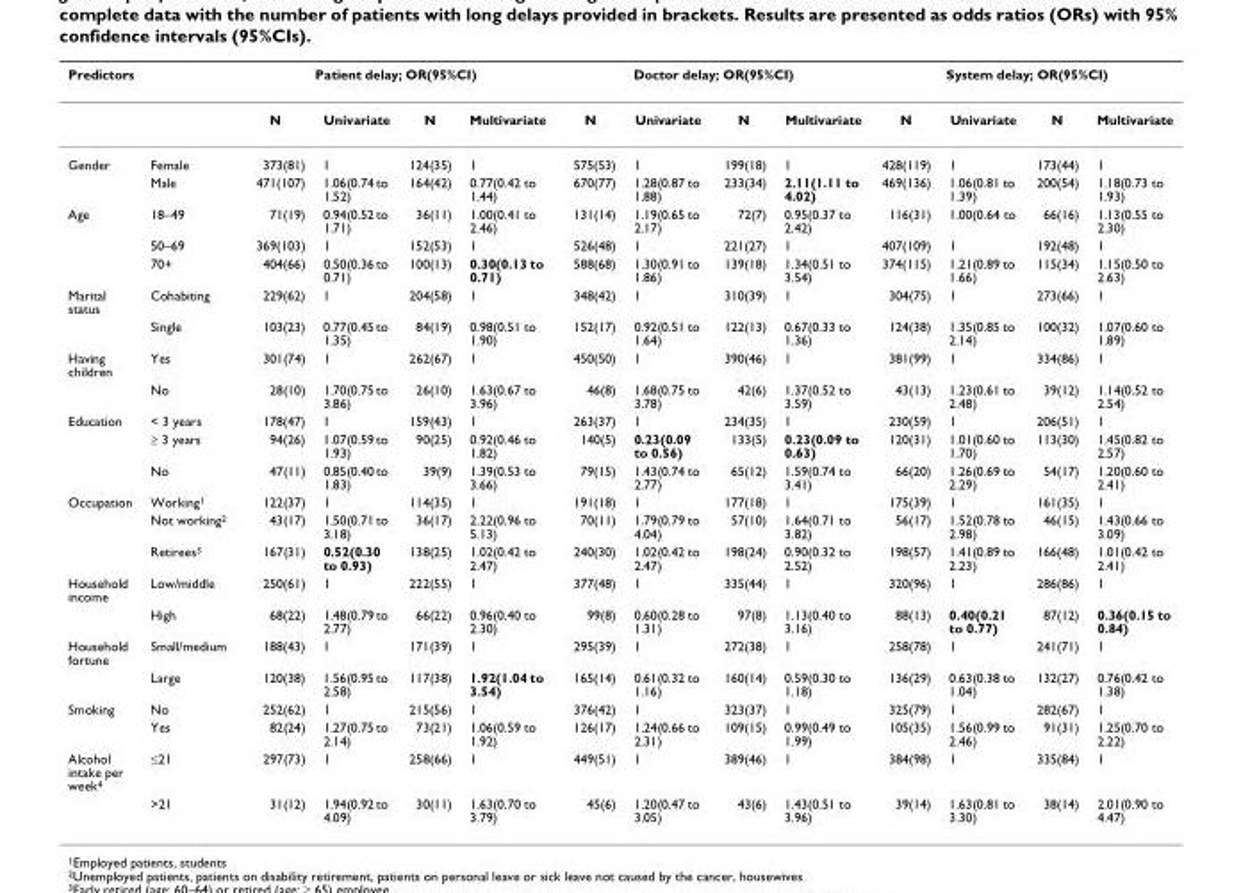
<table><thead><tr><td colspan="2">Predictors</td><td colspan="4">Patient delay; OR(95%CI)</td><td colspan="4">Doctor delay; OR(95%CI)</td><td colspan="4">System delay; OR(95%CI)</td></tr><tr><td></td><td></td><td>N</td><td>Univariate</td><td>N</td><td>Multivariate</td><td>N</td><td>Univariate</td><td>N</td><td>Multivariate</td><td>N</td><td>Univariate</td><td>N</td><td>Multivariate</td></tr></thead><tbody><tr><td rowspan="2">Gender</td><td>Female</td><td>373(81)</td><td>1</td><td>124(35)</td><td>1</td><td>575(53)</td><td>1</td><td>199(18)</td><td>1</td><td>428(119)</td><td>1</td><td>173(44)</td><td>1</td></tr><tr><td>Male</td><td>471(107)</td><td>1.06(0.74 to 1.52)</td><td>164(42)</td><td>0.77(0.42 to 1.44)</td><td>670(77)</td><td>1.28(0.87 to 1.88)</td><td>233(34)</td><td>2.11(1.11 to 4.02)</td><td>469(136)</td><td>1.06(0.81 to 1.39)</td><td>200(54)</td><td>1.18(0.73 to 1.93)</td></tr><tr><td rowspan="3">Age</td><td>18–49</td><td>71(19)</td><td>0.94(0.52 to 1.71)</td><td>36(11)</td><td>1.00(0.41 to 2.46)</td><td>131(14)</td><td>1.19(0.65 to 2.17)</td><td>72(7)</td><td>0.95(0.37 to 2.42)</td><td>116(31)</td><td>1.00(0.64 to</td><td>66(16)</td><td>1.13(0.55 to 2.30)</td></tr><tr><td>50–69</td><td>369(103)</td><td>1</td><td>152(53)</td><td>1</td><td>526(48)</td><td>1</td><td>221(27)</td><td>1</td><td>407(109)</td><td>1</td><td>192(48)</td><td>1</td></tr><tr><td>70+</td><td>404(66)</td><td>0.50(0.36 to 0.71)</td><td>100(13)</td><td>0.30(0.13 to 0.71)</td><td>588(68)</td><td>1.30(0.91 to 1.86)</td><td>139(18)</td><td>1.34(0.51 to 3.54)</td><td>374(115)</td><td>1.21(0.89 to 1.66)</td><td>115(34)</td><td>1.15(0.50 to 2.63)</td></tr><tr><td rowspan="2">Marital status</td><td>Cohabiting</td><td>229(62)</td><td>1</td><td>204(58)</td><td>1</td><td>348(42)</td><td>1</td><td>310(39)</td><td>1</td><td>304(75)</td><td>1</td><td>273(66)</td><td>1</td></tr><tr><td>Single</td><td>103(23)</td><td>0.77(0.45 to 1.35)</td><td>84(19)</td><td>0.98(0.51 to 1.90)</td><td>152(17)</td><td>0.92(0.51 to 1.64)</td><td>122(13)</td><td>0.67(0.33 to 1.36)</td><td>124(38)</td><td>1.35(0.85 to 2.14)</td><td>100(32)</td><td>1.07(0.60 to 1.89)</td></tr><tr><td rowspan="2">Having children</td><td>Yes</td><td>301(74)</td><td>1</td><td>262(67)</td><td>1</td><td>450(50)</td><td>1</td><td>390(46)</td><td>1</td><td>381(99)</td><td>1</td><td>334(86)</td><td>1</td></tr><tr><td>No</td><td>28(10)</td><td>1.70(0.75 to 3.86)</td><td>26(10)</td><td>1.63(0.67 to 3.96)</td><td>46(8)</td><td>1.68(0.75 to 3.78)</td><td>42(6)</td><td>1.37(0.52 to 3.59)</td><td>43(13)</td><td>1.23(0.61 to 2.48)</td><td>39(12)</td><td>1.14(0.52 to 2.54)</td></tr><tr><td rowspan="3">Education</td><td>&lt; 3 years</td><td>178(47)</td><td>1</td><td>159(43)</td><td>1</td><td>263(37)</td><td>1</td><td>234(35)</td><td>1</td><td>230(59)</td><td>1</td><td>206(51)</td><td>1</td></tr><tr><td>≥ 3 years</td><td>94(26)</td><td>1.07(0.59 to 1.93)</td><td>90(25)</td><td>0.92(0.46 to 1.82)</td><td>140(5)</td><td>0.23(0.09 to 0.56)</td><td>133(5)</td><td>0.23(0.09 to 0.63)</td><td>120(31)</td><td>1.01(0.60 to 1.70)</td><td>113(30)</td><td>1.45(0.82 to 2.57)</td></tr><tr><td>No</td><td>47(11)</td><td>0.85(0.40 to 1.83)</td><td>39(9)</td><td>1.39(0.53 to 3.66)</td><td>79(15)</td><td>1.43(0.74 to 2.77)</td><td>65(12)</td><td>1.59(0.74 to 3.41)</td><td>66(20)</td><td>1.26(0.69 to 2.29)</td><td>54(17)</td><td>1.20(0.60 to 2.41)</td></tr><tr><td rowspan="3">Occupation</td><td>Working<sup>1</sup></td><td>122(37)</td><td>1</td><td>114(35)</td><td>1</td><td>191(18)</td><td>1</td><td>177(18)</td><td>1</td><td>175(39)</td><td>1</td><td>161(35)</td><td>1</td></tr><tr><td>Not working<sup>2</sup></td><td>43(17)</td><td>1.50(0.71 to 3.18)</td><td>36(17)</td><td>2.22(0.96 to 5.13)</td><td>70(11)</td><td>1.79(0.79 to 4.04)</td><td>57(10)</td><td>1.64(0.71 to 3.82)</td><td>56(17)</td><td>1.52(0.78 to 2.98)</td><td>46(15)</td><td>1.43(0.66 to 3.09)</td></tr><tr><td>Retirees<sup>3</sup></td><td>167(31)</td><td>0.52(0.30 to 0.93)</td><td>138(25)</td><td>1.02(0.42 to 2.47)</td><td>240(30)</td><td>1.02(0.42 to 2.47)</td><td>198(24)</td><td>0.90(0.32 to 2.52)</td><td>198(57)</td><td>1.41(0.89 to 2.23)</td><td>166(48)</td><td>1.01(0.42 to 2.41)</td></tr><tr><td rowspan="2">Household income</td><td>Low/middle</td><td>250(61)</td><td>1</td><td>222(55)</td><td>1</td><td>377(48)</td><td>1</td><td>335(44)</td><td>1</td><td>320(96)</td><td>1</td><td>286(86)</td><td>1</td></tr><tr><td>High</td><td>68(22)</td><td>1.48(0.79 to 2.77)</td><td>66(22)</td><td>0.96(0.40 to 2.30)</td><td>99(8)</td><td>0.60(0.28 to 1.31)</td><td>97(8)</td><td>1.13(0.40 to 3.16)</td><td>88(13)</td><td>0.40(0.21 to 0.77)</td><td>87(12)</td><td>0.36(0.15 to 0.84)</td></tr><tr><td rowspan="2">Household fortune</td><td>Small/medium</td><td>188(43)</td><td>1</td><td>171(39)</td><td>1</td><td>295(39)</td><td>1</td><td>272(38)</td><td>1</td><td>258(78)</td><td>1</td><td>241(71)</td><td>1</td></tr><tr><td>Large</td><td>120(38)</td><td>1.56(0.95 to 2.58)</td><td>117(38)</td><td>1.92(1.04 to 3.54)</td><td>165(14)</td><td>0.61(0.32 to 1.16)</td><td>160(14)</td><td>0.59(0.30 to 1.18)</td><td>136(29)</td><td>0.63(0.38 to 1.04)</td><td>132(27)</td><td>0.76(0.42 to 1.38)</td></tr><tr><td rowspan="2">Smoking</td><td>No</td><td>252(62)</td><td>1</td><td>215(56)</td><td>1</td><td>376(42)</td><td>1</td><td>323(37)</td><td>1</td><td>325(79)</td><td>1</td><td>282(67)</td><td>1</td></tr><tr><td>Yes</td><td>82(24)</td><td>1.27(0.75 to 2.14)</td><td>73(21)</td><td>1.06(0.59 to 1.92)</td><td>126(17)</td><td>1.24(0.66 to 2.31)</td><td>109(15)</td><td>0.99(0.49 to 1.99)</td><td>105(35)</td><td>1.56(0.99 to 2.46)</td><td>91(31)</td><td>1.25(0.70 to 2.22)</td></tr><tr><td rowspan="2">Alcohol intake per week<sup>4</sup></td><td>≤21</td><td>297(73)</td><td>1</td><td>258(66)</td><td>1</td><td>449(51)</td><td>1</td><td>389(46)</td><td>1</td><td>384(98)</td><td>1</td><td>335(84)</td><td>1</td></tr><tr><td>&gt;21</td><td>31(12)</td><td>1.94(0.92 to 4.09)</td><td>30(11)</td><td>1.63(0.70 to 3.79)</td><td>45(6)</td><td>1.20(0.47 to 3.05)</td><td>43(6)</td><td>1.43(0.51 to 3.96)</td><td>39(14)</td><td>1.63(0.81 to 3.30)</td><td>38(14)</td><td>2.01(0.90 to 4.47)</td></tr></tbody></table>